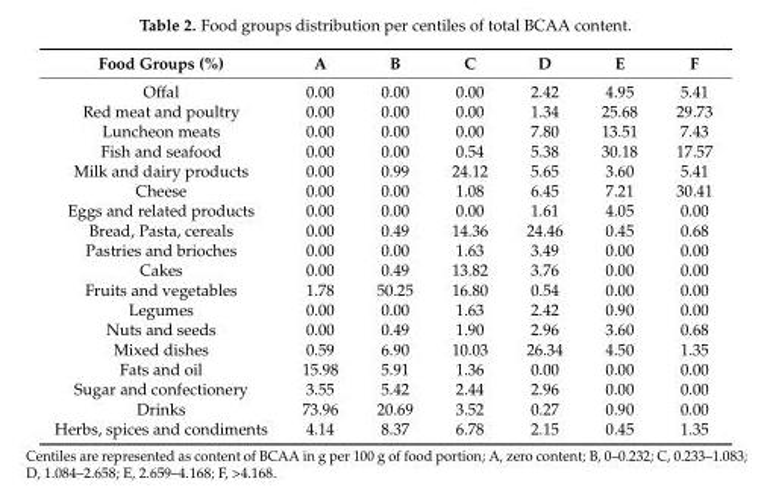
<table><thead><tr><td>Food Groups (%)</td><td>A</td><td>B</td><td>C</td><td>D</td><td>E</td><td>F</td></tr></thead><tbody><tr><td>Offal</td><td>0.00</td><td>0.00</td><td>0.00</td><td>2.42</td><td>4.95</td><td>5.41</td></tr><tr><td>Red meat and poultry</td><td>0.00</td><td>0.00</td><td>0.00</td><td>1.34</td><td>25.68</td><td>29.73</td></tr><tr><td>Luncheon meats</td><td>0.00</td><td>0.00</td><td>0.00</td><td>7.80</td><td>13.51</td><td>7.43</td></tr><tr><td>Fish and seafood</td><td>0.00</td><td>0.00</td><td>0.54</td><td>5.38</td><td>30.18</td><td>17.57</td></tr><tr><td>Milk and dairy products</td><td>0.00</td><td>0.99</td><td>24.12</td><td>5.65</td><td>3.60</td><td>5.41</td></tr><tr><td>Cheese</td><td>0.00</td><td>0.00</td><td>1.08</td><td>6.45</td><td>7.21</td><td>30.41</td></tr><tr><td>Eggs and related products</td><td>0.00</td><td>0.00</td><td>0.00</td><td>1.61</td><td>4.05</td><td>0.00</td></tr><tr><td>Bread, Pasta, cereals</td><td>0.00</td><td>0.49</td><td>14.36</td><td>24.46</td><td>0.45</td><td>0.68</td></tr><tr><td>Pastries and brioches</td><td>0.00</td><td>0.00</td><td>1.63</td><td>3.49</td><td>0.00</td><td>0.00</td></tr><tr><td>Cakes</td><td>0.00</td><td>0.49</td><td>13.82</td><td>3.76</td><td>0.00</td><td>0.00</td></tr><tr><td>Fruits and vegetables</td><td>1.78</td><td>50.25</td><td>16.80</td><td>0.54</td><td>0.00</td><td>0.00</td></tr><tr><td>Legumes</td><td>0.00</td><td>0.00</td><td>1.63</td><td>2.42</td><td>0.90</td><td>0.00</td></tr><tr><td>Nuts and seeds</td><td>0.00</td><td>0.49</td><td>1.90</td><td>2.96</td><td>3.60</td><td>0.68</td></tr><tr><td>Mixed dishes</td><td>0.59</td><td>6.90</td><td>10.03</td><td>26.34</td><td>4.50</td><td>1.35</td></tr><tr><td>Fats and oil</td><td>15.98</td><td>5.91</td><td>1.36</td><td>0.00</td><td>0.00</td><td>0.00</td></tr><tr><td>Sugar and confectionery</td><td>3.55</td><td>5.42</td><td>2.44</td><td>2.96</td><td>0.00</td><td>0.00</td></tr><tr><td>Drinks</td><td>73.96</td><td>20.69</td><td>3.52</td><td>0.27</td><td>0.90</td><td>0.00</td></tr><tr><td>Herbs, spices and condiments</td><td>4.14</td><td>8.37</td><td>6.78</td><td>2.15</td><td>0.45</td><td>1.35</td></tr></tbody></table>